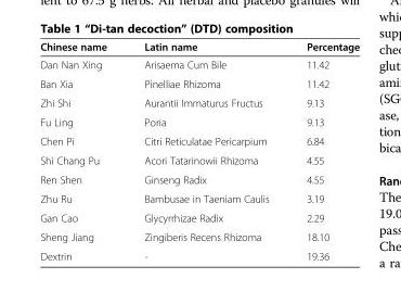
<table><thead><tr><td>Chinese name</td><td>Latin name</td><td>Percentage</td></tr></thead><tbody><tr><td>Dan Nan Xing</td><td>Arisaema Cum Bile</td><td>11.42</td></tr><tr><td>Ban Xia</td><td>Pinelliae Rhizoma</td><td>11.42</td></tr><tr><td>Zhi Shi</td><td>Aurantii Immaturus Fructus</td><td>9.13</td></tr><tr><td>Fu Ling</td><td>Poria</td><td>9.13</td></tr><tr><td>Chen Pi</td><td>Citri Reticulatae Pericarpium</td><td>6.84</td></tr><tr><td>Shi Chang Pu</td><td>Acori Tatarinowii Rhizoma</td><td>4.55</td></tr><tr><td>Ren Shen</td><td>Ginseng Radix</td><td>4.55</td></tr><tr><td>Zhu Ru</td><td>Bambusae in Taeniam Caulis</td><td>3.19</td></tr><tr><td>Gan Cao</td><td>Glycyrrhizae Radix</td><td>2.29</td></tr><tr><td>Sheng Jiang</td><td>Zingiberis Recens Rhizoma</td><td>18.10</td></tr><tr><td>Dextrin</td><td>-</td><td>19.36</td></tr></tbody></table>